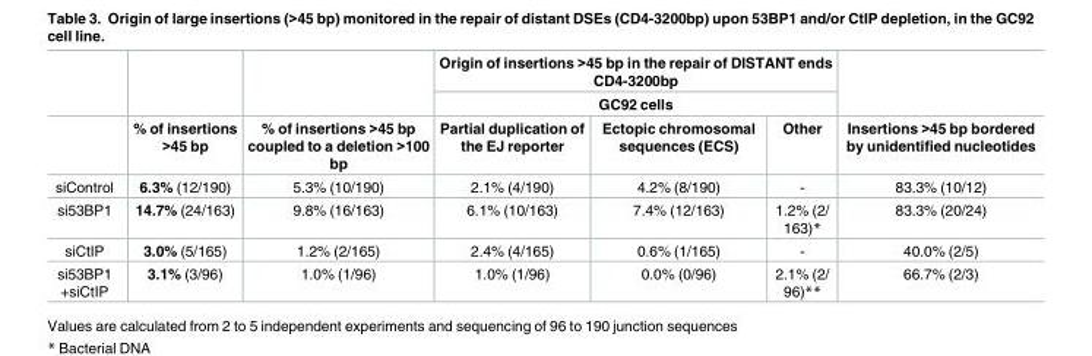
<table><thead><tr><td rowspan="3"></td><td rowspan="3">% of insertions &gt;45 bp</td><td rowspan="3">% of insertions &gt;45 bp coupled to a deletion &gt;100 bp</td><td rowspan="2" colspan="3">Origin of insertions &gt;45 bp in the repair of DISTANT ends CD4-3200bp GC92 cells</td><td rowspan="3">Insertions &gt;45 bp bordered by unidentified nucleotides</td></tr><tr></tr><tr><td>Partial duplication of the EJ reporter</td><td>Ectopic chromosomal sequences (ECS)</td><td>Other</td></tr></thead><tbody><tr><td>siControl</td><td>6.3% (12/190)</td><td>5.3% (10/190)</td><td>2.1% (4/190)</td><td>4.2% (8/190)</td><td>-</td><td>83.3% (10/12)</td></tr><tr><td>si53BP1</td><td>14.7% (24/163)</td><td>9.8% (16/163)</td><td>6.1% (10/163)</td><td>7.4% (12/163)</td><td>1.2% (2/ 163)*</td><td>83.3% (20/24)</td></tr><tr><td>siCtIP</td><td>3.0% (5/165)</td><td>1.2% (2/165)</td><td>2.4% (4/165)</td><td>0.6% (1/165)</td><td>-</td><td>40.0% (2/5)</td></tr><tr><td>si53BP1 +siCtIP</td><td>3.1% (3/96)</td><td>1.0% (1/96)</td><td>1.0% (1/96)</td><td>0.0% (0/96)</td><td>2.1% (2/ 96)**</td><td>66.7% (2/3)</td></tr></tbody></table>